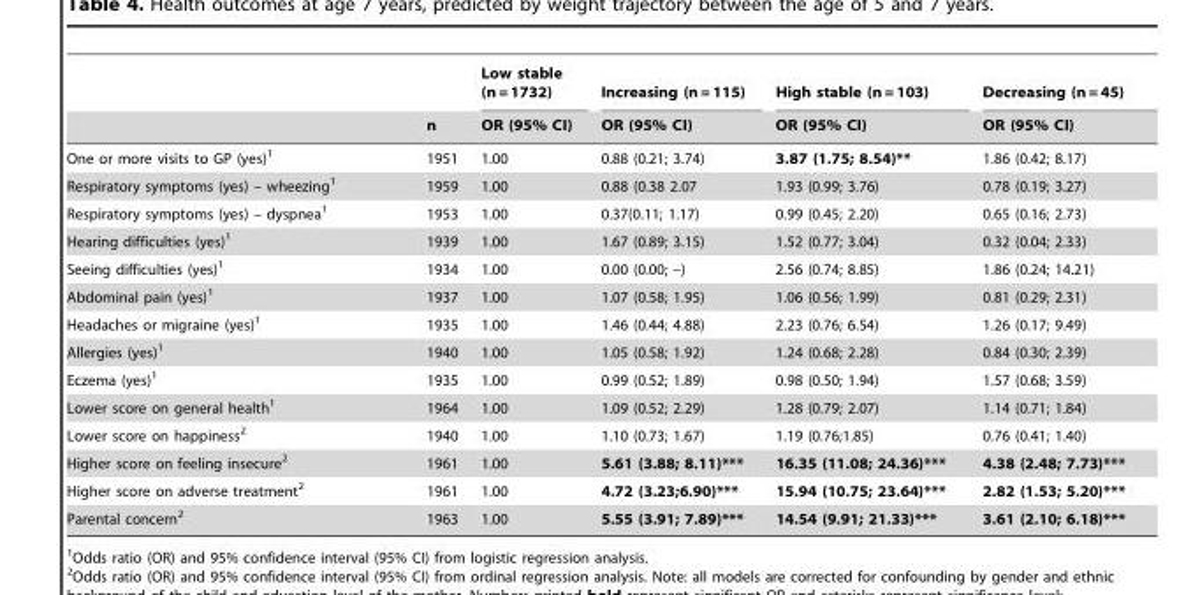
<table><thead><tr><td rowspan="2"></td><td rowspan="2">n</td><td rowspan="2">Low stable (n = 1732) OR (95% CI)</td><td rowspan="2">Increasing (n = 115) OR (95% CI)</td><td rowspan="2">High stable (n = 103) OR (95% CI)</td><td rowspan="2">Decreasing (n = 45) OR (95% CI)</td></tr><tr></tr></thead><tbody><tr><td>One or more visits to GP (yes)<sup>1</sup></td><td>1951</td><td>1.00</td><td>0.88 (0.21; 3.74)</td><td>3.87 (1.75; 8.54)**</td><td>1.86 (0.42; 8.17)</td></tr><tr><td>Respiratory symptoms (yes) – wheezing<sup>1</sup></td><td>1959</td><td>1.00</td><td>0.88 (0.38 2.07</td><td>1.93 (0.99; 3.76)</td><td>0.78 (0.19; 3.27)</td></tr><tr><td>Respiratory symptoms (yes) – dyspnea<sup>1</sup></td><td>1953</td><td>1.00</td><td>0.37(0.11; 1.17)</td><td>0.99 (0.45; 2.20)</td><td>0.65 (0.16; 2.73)</td></tr><tr><td>Hearing difficulties (yes)<sup>1</sup></td><td>1939</td><td>1.00</td><td>1.67 (0.89; 3.15)</td><td>1.52 (0.77; 3.04)</td><td>0.32 (0.04; 2.33)</td></tr><tr><td>Seeing difficulties (yes)<sup>1</sup></td><td>1934</td><td>1.00</td><td>0.00 (0.00; –)</td><td>2.56 (0.74; 8.85)</td><td>1.86 (0.24; 14.21)</td></tr><tr><td>Abdominal pain (yes)<sup>1</sup></td><td>1937</td><td>1.00</td><td>1.07 (0.58; 1.95)</td><td>1.06 (0.56; 1.99)</td><td>0.81 (0.29; 2.31)</td></tr><tr><td>Headaches or migraine (yes)<sup>1</sup></td><td>1935</td><td>1.00</td><td>1.46 (0.44; 4.88)</td><td>2.23 (0.76; 6.54)</td><td>1.26 (0.17; 9.49)</td></tr><tr><td>Allergies (yes)<sup>1</sup></td><td>1940</td><td>1.00</td><td>1.05 (0.58; 1.92)</td><td>1.24 (0.68; 2.28)</td><td>0.84 (0.30; 2.39)</td></tr><tr><td>Eczema (yes)<sup>1</sup></td><td>1935</td><td>1.00</td><td>0.99 (0.52; 1.89)</td><td>0.98 (0.50; 1.94)</td><td>1.57 (0.68; 3.59)</td></tr><tr><td>Lower score on general health<sup>1</sup></td><td>1964</td><td>1.00</td><td>1.09 (0.52; 2.29)</td><td>1.28 (0.79; 2.07)</td><td>1.14 (0.71; 1.84)</td></tr><tr><td>Lower score on happiness<sup>2</sup></td><td>1940</td><td>1.00</td><td>1.10 (0.73; 1.67)</td><td>1.19 (0.76;1.85)</td><td>0.76 (0.41; 1.40)</td></tr><tr><td>Higher score on feeling insecure<sup>2</sup></td><td>1961</td><td>1.00</td><td>5.61 (3.88; 8.11)***</td><td>16.35 (11.08; 24.36)***</td><td>4.38 (2.48; 7.73)***</td></tr><tr><td>Higher score on adverse treatment<sup>2</sup></td><td>1961</td><td>1.00</td><td>4.72 (3.23;6.90)***</td><td>15.94 (10.75; 23.64)***</td><td>2.82 (1.53; 5.20)***</td></tr><tr><td>Parental concern<sup>2</sup></td><td>1963</td><td>1.00</td><td>5.55 (3.91; 7.89)***</td><td>14.54 (9.91; 21.33)***</td><td>3.61 (2.10; 6.18)***</td></tr></tbody></table>